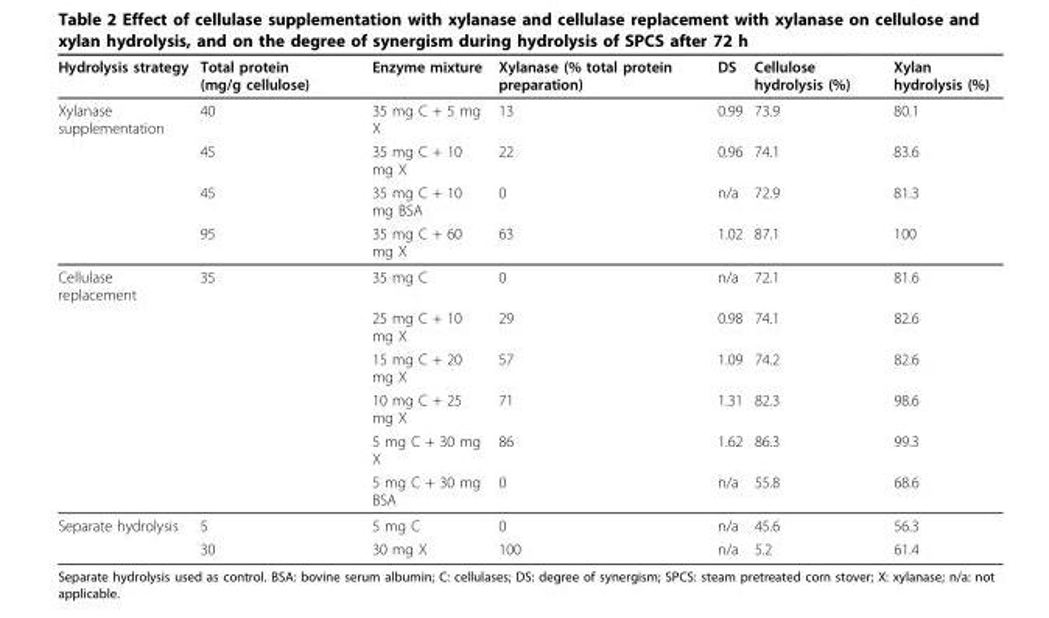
<table><thead><tr><td>Hydrolysis strategy</td><td>Total protein (mg/g cellulose)</td><td>Enzyme mixture</td><td>Xylanase (% total protein preparation)</td><td>DS</td><td>Cellulose hydrolysis (%)</td><td>Xylan hydrolysis (%)</td></tr></thead><tbody><tr><td rowspan="4">Xylanase supplementation</td><td>40</td><td>35 mg C + 5 mg X</td><td>13</td><td>0.99</td><td>73.9</td><td>80.1</td></tr><tr><td>45</td><td>35 mg C + 10 mg X</td><td>22</td><td>0.96</td><td>74.1</td><td>83.6</td></tr><tr><td>45</td><td>35 mg C + 10 mg BSA</td><td>0</td><td>n/a</td><td>72.9</td><td>81.3</td></tr><tr><td>95</td><td>35 mg C + 60 mg X</td><td>63</td><td>1.02</td><td>87.1</td><td>100</td></tr><tr><td rowspan="6">Cellulase replacement</td><td>35</td><td>35 mg C</td><td>0</td><td>n/a</td><td>72.1</td><td>81.6</td></tr><tr><td></td><td>25 mg C + 10 mg X</td><td>29</td><td>0.98</td><td>74.1</td><td>82.6</td></tr><tr><td></td><td>15 mg C + 20 mg X</td><td>57</td><td>1.09</td><td>74.2</td><td>82.6</td></tr><tr><td></td><td>10 mg C + 25 mg X</td><td>71</td><td>1.31</td><td>82.3</td><td>98.6</td></tr><tr><td></td><td>5 mg C + 30 mg X</td><td>86</td><td>1.62</td><td>86.3</td><td>99.3</td></tr><tr><td></td><td>5 mg C + 30 mg BSA</td><td>0</td><td>n/a</td><td>55.8</td><td>68.6</td></tr><tr><td rowspan="2">Separate hydrolysis</td><td>5</td><td>5 mg C</td><td>0</td><td>n/a</td><td>45.6</td><td>56.3</td></tr><tr><td>30</td><td>30 mg X</td><td>100</td><td>n/a</td><td>5.2</td><td>61.4</td></tr></tbody></table>